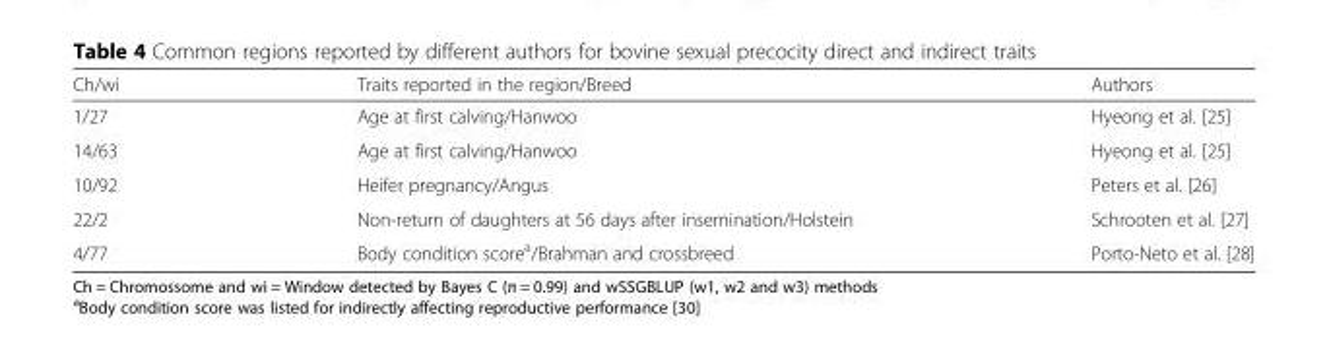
<table><thead><tr><td>Ch/wi</td><td>Traits reported in the region/Breed</td><td>Authors</td></tr></thead><tbody><tr><td>1/27</td><td>Age at first calving/Hanwoo</td><td>Hyeong et al. [25]</td></tr><tr><td>14/63</td><td>Age at first calving/Hanwoo</td><td>Hyeong et al. [25]</td></tr><tr><td>10/92</td><td>Heifer pregnancy/Angus</td><td>Peters et al. [26]</td></tr><tr><td>22/2</td><td>Non-return of daughters at 56 days after insemination/Holstein</td><td>Schrooten et al. [27]</td></tr><tr><td>4/77</td><td>Body condition score<sup>a</sup>/Brahman and crossbreed</td><td>Porto-Neto et al. [28]</td></tr></tbody></table>